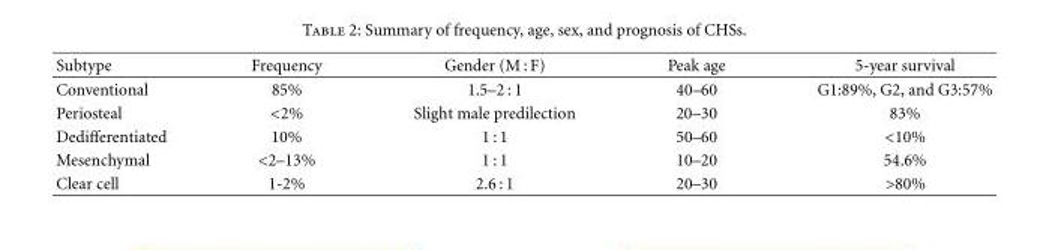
<table><thead><tr><td>Subtype</td><td>Frequency</td><td>Gender (M : F)</td><td>Peak age</td><td>5-year survival</td></tr></thead><tbody><tr><td>Conventional</td><td>85%</td><td>1.5–2 : 1</td><td>40–60</td><td>G1:89%, G2, and G3:57%</td></tr><tr><td>Periosteal</td><td>&lt;2%</td><td>Slight male predilection</td><td>20–30</td><td>83%</td></tr><tr><td>Dedifferentiated</td><td>10%</td><td>1 : 1</td><td>50–60</td><td>&lt;10%</td></tr><tr><td>Mesenchymal</td><td>&lt;2–13%</td><td>1 : 1</td><td>10–20</td><td>54.6%</td></tr><tr><td>Clear cell</td><td>1-2%</td><td>2.6 : 1</td><td>20–30</td><td>&gt;80%</td></tr></tbody></table>